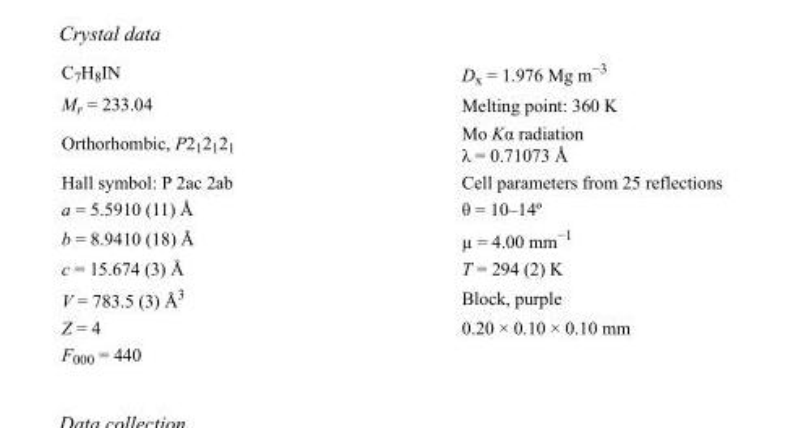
<table><tbody><tr><td>C<sub>7</sub>H<sub>8</sub>IN</td><td>D<sub>x</sub> = 1.976 Mg m<sup>−3</sup></td></tr><tr><td>M<sub>r</sub> = 233.04</td><td>Melting point: 360 K</td></tr><tr><td>Orthorhombic, P2<sub>1</sub>2<sub>1</sub>2<sub>1</sub></td><td>Mo Kα radiation λ = 0.71073 Å</td></tr><tr><td>Hall symbol: P 2ac 2ab</td><td>Cell parameters from 25 reflections</td></tr><tr><td>a = 5.5910 (11) Å</td><td>θ = 10–14º</td></tr><tr><td>b = 8.9410 (18) Å</td><td>µ = 4.00 mm<sup>−1</sup></td></tr><tr><td>c = 15.674 (3) Å</td><td>T = 294 (2) K</td></tr><tr><td>V = 783.5 (3) Å<sup>3</sup></td><td>Block, purple</td></tr><tr><td>Z = 4</td><td>0.20 × 0.10 × 0.10 mm</td></tr><tr><td>F<sub>000</sub> = 440</td><td></td></tr></tbody></table>